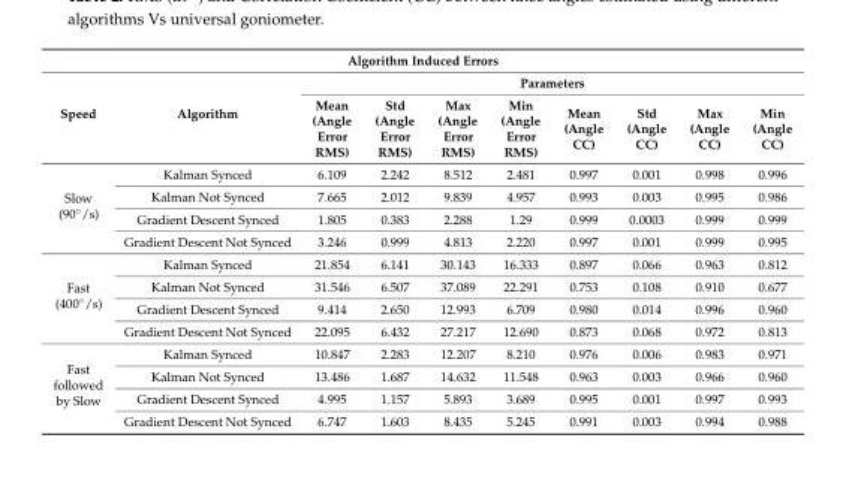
<table><thead><tr><td colspan="10">Algorithm Induced Errors</td></tr><tr><td rowspan="2">Speed</td><td rowspan="2">Algorithm</td><td colspan="8">Parameters</td></tr><tr><td>Mean (Angle Error RMS)</td><td>Std (Angle Error RMS)</td><td>Max (Angle Error RMS)</td><td>Min (Angle Error RMS)</td><td>Mean (Angle CC)</td><td>Std (Angle CC)</td><td>Max (Angle CC)</td><td>Min (Angle CC)</td></tr></thead><tbody><tr><td rowspan="4">Slow (90◦/s)</td><td>Kalman Synced</td><td>6.109</td><td>2.242</td><td>8.512</td><td>2.481</td><td>0.997</td><td>0.001</td><td>0.998</td><td>0.996</td></tr><tr><td>Kalman Not Synced</td><td>7.665</td><td>2.012</td><td>9.839</td><td>4.957</td><td>0.993</td><td>0.003</td><td>0.995</td><td>0.986</td></tr><tr><td>Gradient Descent Synced</td><td>1.805</td><td>0.383</td><td>2.288</td><td>1.29</td><td>0.999</td><td>0.0003</td><td>0.999</td><td>0.999</td></tr><tr><td>Gradient Descent Not Synced</td><td>3.246</td><td>0.999</td><td>4.813</td><td>2.220</td><td>0.997</td><td>0.001</td><td>0.999</td><td>0.995</td></tr><tr><td rowspan="4">Fast (400◦/s)</td><td>Kalman Synced</td><td>21.854</td><td>6.141</td><td>30.143</td><td>16.333</td><td>0.897</td><td>0.066</td><td>0.963</td><td>0.812</td></tr><tr><td>Kalman Not Synced</td><td>31.546</td><td>6.507</td><td>37.089</td><td>22.291</td><td>0.753</td><td>0.108</td><td>0.910</td><td>0.677</td></tr><tr><td>Gradient Descent Synced</td><td>9.414</td><td>2.650</td><td>12.993</td><td>6.709</td><td>0.980</td><td>0.014</td><td>0.996</td><td>0.960</td></tr><tr><td>Gradient Descent Not Synced</td><td>22.095</td><td>6.432</td><td>27.217</td><td>12.690</td><td>0.873</td><td>0.068</td><td>0.972</td><td>0.813</td></tr><tr><td rowspan="4">Fast followed by Slow</td><td>Kalman Synced</td><td>10.847</td><td>2.283</td><td>12.207</td><td>8.210</td><td>0.976</td><td>0.006</td><td>0.983</td><td>0.971</td></tr><tr><td>Kalman Not Synced</td><td>13.486</td><td>1.687</td><td>14.632</td><td>11.548</td><td>0.963</td><td>0.003</td><td>0.966</td><td>0.960</td></tr><tr><td>Gradient Descent Synced</td><td>4.995</td><td>1.157</td><td>5.893</td><td>3.689</td><td>0.995</td><td>0.001</td><td>0.997</td><td>0.993</td></tr><tr><td>Gradient Descent Not Synced</td><td>6.747</td><td>1.603</td><td>8.435</td><td>5.245</td><td>0.991</td><td>0.003</td><td>0.994</td><td>0.988</td></tr></tbody></table>